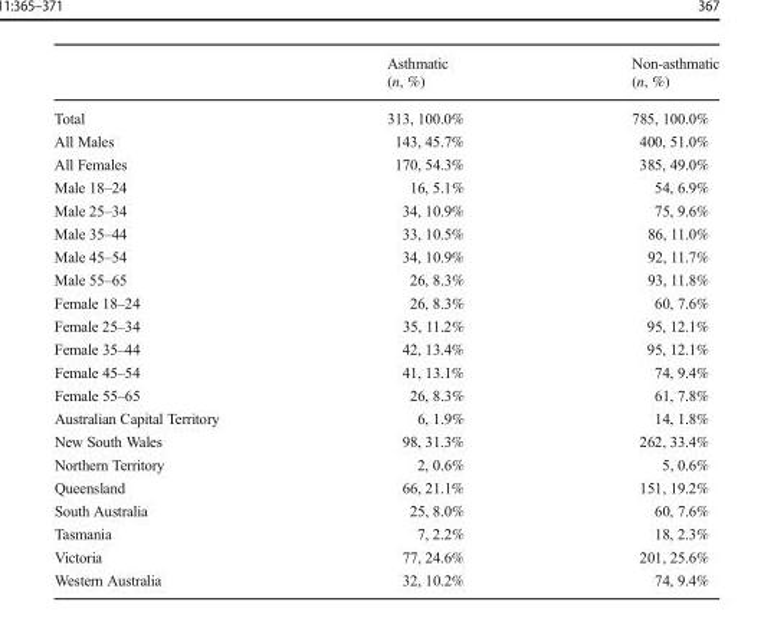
<table><thead><tr><td></td><td>Asthmatic (n, %)</td><td>Non-asthmatic (n, %)</td></tr></thead><tbody><tr><td>Total</td><td>313, 100.0%</td><td>785, 100.0%</td></tr><tr><td>All Males</td><td>143, 45.7%</td><td>400, 51.0%</td></tr><tr><td>All Females</td><td>170, 54.3%</td><td>385, 49.0%</td></tr><tr><td>Male 18–24</td><td>16, 5.1%</td><td>54, 6.9%</td></tr><tr><td>Male 25–34</td><td>34, 10.9%</td><td>75, 9.6%</td></tr><tr><td>Male 35–44</td><td>33, 10.5%</td><td>86, 11.0%</td></tr><tr><td>Male 45–54</td><td>34, 10.9%</td><td>92, 11.7%</td></tr><tr><td>Male 55–65</td><td>26, 8.3%</td><td>93, 11.8%</td></tr><tr><td>Female 18–24</td><td>26, 8.3%</td><td>60, 7.6%</td></tr><tr><td>Female 25–34</td><td>35, 11.2%</td><td>95, 12.1%</td></tr><tr><td>Female 35–44</td><td>42, 13.4%</td><td>95, 12.1%</td></tr><tr><td>Female 45–54</td><td>41, 13.1%</td><td>74, 9.4%</td></tr><tr><td>Female 55–65</td><td>26, 8.3%</td><td>61, 7.8%</td></tr><tr><td>Australian Capital Territory</td><td>6, 1.9%</td><td>14, 1.8%</td></tr><tr><td>New South Wales</td><td>98, 31.3%</td><td>262, 33.4%</td></tr><tr><td>Northern Territory</td><td>2, 0.6%</td><td>5, 0.6%</td></tr><tr><td>Queensland</td><td>66, 21.1%</td><td>151, 19.2%</td></tr><tr><td>South Australia</td><td>25, 8.0%</td><td>60, 7.6%</td></tr><tr><td>Tasmania</td><td>7, 2.2%</td><td>18, 2.3%</td></tr><tr><td>Victoria</td><td>77, 24.6%</td><td>201, 25.6%</td></tr><tr><td>Western Australia</td><td>32, 10.2%</td><td>74, 9.4%</td></tr></tbody></table>